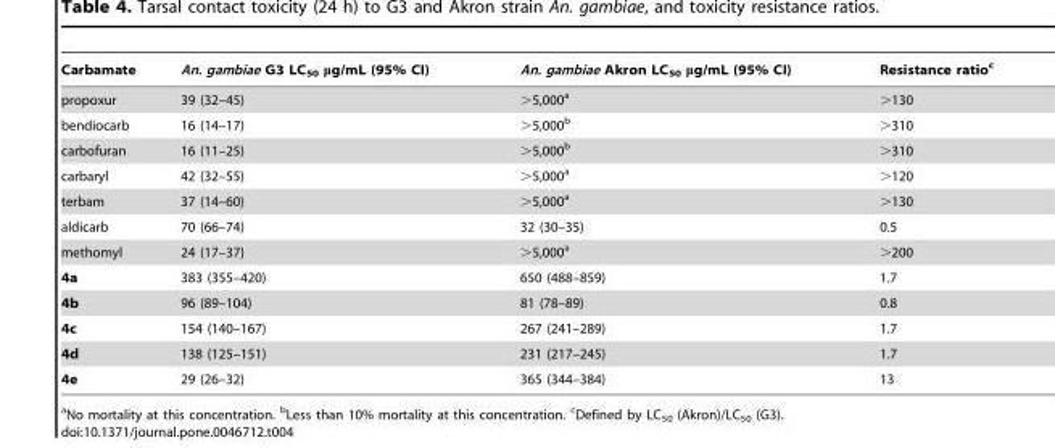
<table><thead><tr><td>Carbamate</td><td>An. gambiae G3 LC<sub>50</sub> μg/mL (95% CI)</td><td>An. gambiae Akron LC<sub>50</sub> μg/mL (95% CI)</td><td>Resistance ratio<sup>c</sup></td></tr></thead><tbody><tr><td>propoxur</td><td>39 (32–45)</td><td>&gt;5,000<sup>a</sup></td><td>&gt;130</td></tr><tr><td>bendiocarb</td><td>16 (14–17)</td><td>&gt;5,000<sup>b</sup></td><td>&gt;310</td></tr><tr><td>carbofuran</td><td>16 (11–25)</td><td>&gt;5,000<sup>b</sup></td><td>&gt;310</td></tr><tr><td>carbaryl</td><td>42 (32–55)</td><td>&gt;5,000<sup>a</sup></td><td>&gt;120</td></tr><tr><td>terbam</td><td>37 (14–60)</td><td>&gt;5,000<sup>a</sup></td><td>&gt;130</td></tr><tr><td>aldicarb</td><td>70 (66–74)</td><td>32 (30–35)</td><td>0.5</td></tr><tr><td>methomyl</td><td>24 (17–37)</td><td>&gt;5,000<sup>a</sup></td><td>&gt;200</td></tr><tr><td>4a</td><td>383 (355–420)</td><td>650 (488–859)</td><td>1.7</td></tr><tr><td>4b</td><td>96 (89–104)</td><td>81 (78–89)</td><td>0.8</td></tr><tr><td>4c</td><td>154 (140–167)</td><td>267 (241–289)</td><td>1.7</td></tr><tr><td>4d</td><td>138 (125–151)</td><td>231 (217–245)</td><td>1.7</td></tr><tr><td>4e</td><td>29 (26–32)</td><td>365 (344–384)</td><td>13</td></tr></tbody></table>